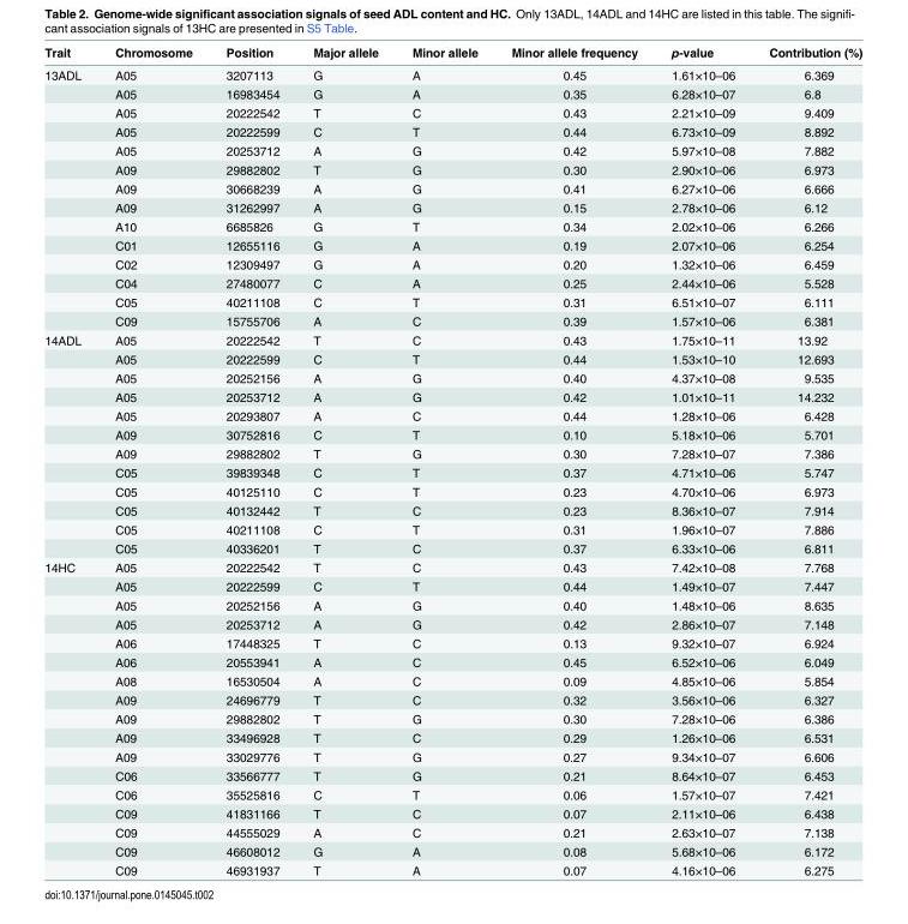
<table><thead><tr><td>Trait</td><td>Chromosome</td><td>Position</td><td>Major allele</td><td>Minor allele</td><td>Minor allele frequency</td><td>p-value</td><td>Contribution (%)</td></tr></thead><tbody><tr><td rowspan="14">13ADL</td><td>A05</td><td>3207113</td><td>G</td><td>A</td><td>0.45</td><td>1.61×10–06</td><td>6.369</td></tr><tr><td>A05</td><td>16983454</td><td>G</td><td>A</td><td>0.35</td><td>6.28×10–07</td><td>6.8</td></tr><tr><td>A05</td><td>20222542</td><td>T</td><td>C</td><td>0.43</td><td>2.21×10–09</td><td>9.409</td></tr><tr><td>A05</td><td>20222599</td><td>C</td><td>T</td><td>0.44</td><td>6.73×10–09</td><td>8.892</td></tr><tr><td>A05</td><td>20253712</td><td>A</td><td>G</td><td>0.42</td><td>5.97×10–08</td><td>7.882</td></tr><tr><td>A09</td><td>29882802</td><td>T</td><td>G</td><td>0.30</td><td>2.90×10–06</td><td>6.973</td></tr><tr><td>A09</td><td>30668239</td><td>A</td><td>G</td><td>0.41</td><td>6.27×10–06</td><td>6.666</td></tr><tr><td>A09</td><td>31262997</td><td>A</td><td>G</td><td>0.15</td><td>2.78×10–06</td><td>6.12</td></tr><tr><td>A10</td><td>6685826</td><td>G</td><td>T</td><td>0.34</td><td>2.02×10–06</td><td>6.266</td></tr><tr><td>C01</td><td>12655116</td><td>G</td><td>A</td><td>0.19</td><td>2.07×10–06</td><td>6.254</td></tr><tr><td>C02</td><td>12309497</td><td>G</td><td>A</td><td>0.20</td><td>1.32×10–06</td><td>6.459</td></tr><tr><td>C04</td><td>27480077</td><td>C</td><td>A</td><td>0.25</td><td>2.44×10–06</td><td>5.528</td></tr><tr><td>C05</td><td>40211108</td><td>C</td><td>T</td><td>0.31</td><td>6.51×10–07</td><td>6.111</td></tr><tr><td>C09</td><td>15755706</td><td>A</td><td>C</td><td>0.39</td><td>1.57×10–06</td><td>6.381</td></tr><tr><td rowspan="12">14ADL</td><td>A05</td><td>20222542</td><td>T</td><td>C</td><td>0.43</td><td>1.75×10–11</td><td>13.92</td></tr><tr><td>A05</td><td>20222599</td><td>C</td><td>T</td><td>0.44</td><td>1.53×10–10</td><td>12.693</td></tr><tr><td>A05</td><td>20252156</td><td>A</td><td>G</td><td>0.40</td><td>4.37×10–08</td><td>9.535</td></tr><tr><td>A05</td><td>20253712</td><td>A</td><td>G</td><td>0.42</td><td>1.01×10–11</td><td>14.232</td></tr><tr><td>A05</td><td>20293807</td><td>A</td><td>C</td><td>0.44</td><td>1.28×10–06</td><td>6.428</td></tr><tr><td>A09</td><td>30752816</td><td>C</td><td>T</td><td>0.10</td><td>5.18×10–06</td><td>5.701</td></tr><tr><td>A09</td><td>29882802</td><td>T</td><td>G</td><td>0.30</td><td>7.28×10–07</td><td>7.386</td></tr><tr><td>C05</td><td>39839348</td><td>C</td><td>T</td><td>0.37</td><td>4.71×10–06</td><td>5.747</td></tr><tr><td>C05</td><td>40125110</td><td>C</td><td>T</td><td>0.23</td><td>4.70×10–06</td><td>6.973</td></tr><tr><td>C05</td><td>40132442</td><td>T</td><td>C</td><td>0.23</td><td>8.36×10–07</td><td>7.914</td></tr><tr><td>C05</td><td>40211108</td><td>C</td><td>T</td><td>0.31</td><td>1.96×10–07</td><td>7.886</td></tr><tr><td>C05</td><td>40336201</td><td>T</td><td>C</td><td>0.37</td><td>6.33×10–06</td><td>6.811</td></tr><tr><td rowspan="17">14HC</td><td>A05</td><td>20222542</td><td>T</td><td>C</td><td>0.43</td><td>7.42×10–08</td><td>7.768</td></tr><tr><td>A05</td><td>20222599</td><td>C</td><td>T</td><td>0.44</td><td>1.49×10–07</td><td>7.447</td></tr><tr><td>A05</td><td>20252156</td><td>A</td><td>G</td><td>0.40</td><td>1.48×10–06</td><td>8.635</td></tr><tr><td>A05</td><td>20253712</td><td>A</td><td>G</td><td>0.42</td><td>2.86×10–07</td><td>7.148</td></tr><tr><td>A06</td><td>17448325</td><td>T</td><td>C</td><td>0.13</td><td>9.32×10–07</td><td>6.924</td></tr><tr><td>A06</td><td>20553941</td><td>A</td><td>C</td><td>0.45</td><td>6.52×10–06</td><td>6.049</td></tr><tr><td>A08</td><td>16530504</td><td>A</td><td>C</td><td>0.09</td><td>4.85×10–06</td><td>5.854</td></tr><tr><td>A09</td><td>24696779</td><td>T</td><td>C</td><td>0.32</td><td>3.56×10–06</td><td>6.327</td></tr><tr><td>A09</td><td>29882802</td><td>T</td><td>G</td><td>0.30</td><td>7.28×10–06</td><td>6.386</td></tr><tr><td>A09</td><td>33496928</td><td>T</td><td>C</td><td>0.29</td><td>1.26×10–06</td><td>6.531</td></tr><tr><td>A09</td><td>33029776</td><td>T</td><td>G</td><td>0.27</td><td>9.34×10–07</td><td>6.606</td></tr><tr><td>C06</td><td>33566777</td><td>T</td><td>G</td><td>0.21</td><td>8.64×10–07</td><td>6.453</td></tr><tr><td>C06</td><td>35525816</td><td>C</td><td>T</td><td>0.06</td><td>1.57×10–07</td><td>7.421</td></tr><tr><td>C09</td><td>41831166</td><td>T</td><td>C</td><td>0.07</td><td>2.11×10–06</td><td>6.438</td></tr><tr><td>C09</td><td>44555029</td><td>A</td><td>C</td><td>0.21</td><td>2.63×10–07</td><td>7.138</td></tr><tr><td>C09</td><td>46608012</td><td>G</td><td>A</td><td>0.08</td><td>5.68×10–06</td><td>6.172</td></tr><tr><td>C09</td><td>46931937</td><td>T</td><td>A</td><td>0.07</td><td>4.16×10–06</td><td>6.275</td></tr></tbody></table>